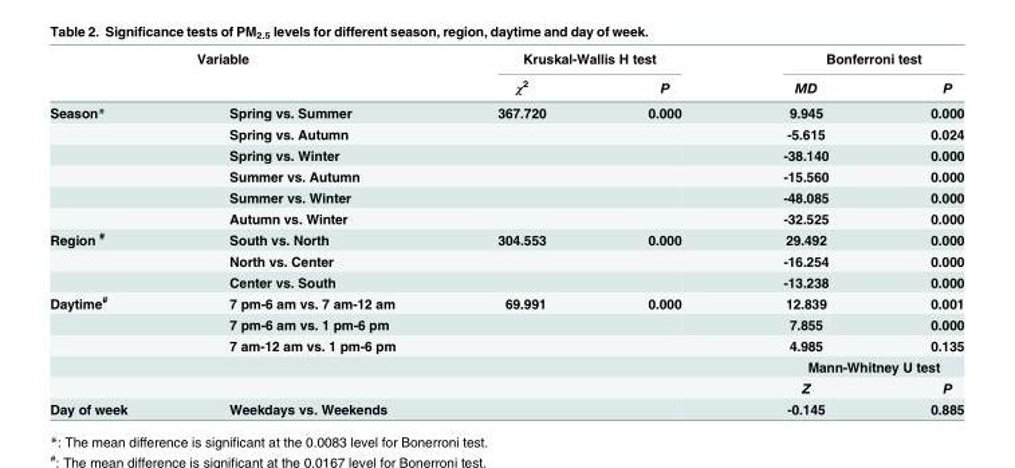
<table><thead><tr><td rowspan="2" colspan="2">Variable</td><td colspan="2">Kruskal-Wallis H test</td><td colspan="2">Bonferroni test</td></tr><tr><td rowspan="2">χ<sup>2</sup> 367.720</td><td rowspan="2">P 0.000</td><td rowspan="2">MD 9.945</td><td rowspan="2">P 0.000</td></tr><tr><td>Season*</td><td>Spring vs. Summer</td></tr></thead><tbody><tr><td></td><td>Spring vs. Autumn</td><td></td><td></td><td>-5.615</td><td>0.024</td></tr><tr><td></td><td>Spring vs. Winter</td><td></td><td></td><td>-38.140</td><td>0.000</td></tr><tr><td></td><td>Summer vs. Autumn</td><td></td><td></td><td>-15.560</td><td>0.000</td></tr><tr><td></td><td>Summer vs. Winter</td><td></td><td></td><td>-48.085</td><td>0.000</td></tr><tr><td></td><td>Autumn vs. Winter</td><td></td><td></td><td>-32.525</td><td>0.000</td></tr><tr><td rowspan="3">Region <sup>#</sup></td><td>South vs. North</td><td>304.553</td><td>0.000</td><td>29.492</td><td>0.000</td></tr><tr><td>North vs. Center</td><td></td><td></td><td>-16.254</td><td>0.000</td></tr><tr><td>Center vs. South</td><td></td><td></td><td>-13.238</td><td>0.000</td></tr><tr><td rowspan="5">Daytime<sup>#</sup></td><td>7 pm-6 am vs. 7 am-12 am</td><td>69.991</td><td>0.000</td><td>12.839</td><td>0.001</td></tr><tr><td>7 pm-6 am vs. 1 pm-6 pm</td><td></td><td></td><td>7.855</td><td>0.000</td></tr><tr><td>7 am-12 am vs. 1 pm-6 pm</td><td></td><td></td><td>4.985</td><td>0.135</td></tr><tr><td></td><td></td><td></td><td colspan="2">Mann-Whitney U test</td></tr><tr><td></td><td></td><td></td><td>Z</td><td>P</td></tr><tr><td>Day of week</td><td>Weekdays vs. Weekends</td><td></td><td></td><td>-0.145</td><td>0.885</td></tr></tbody></table>